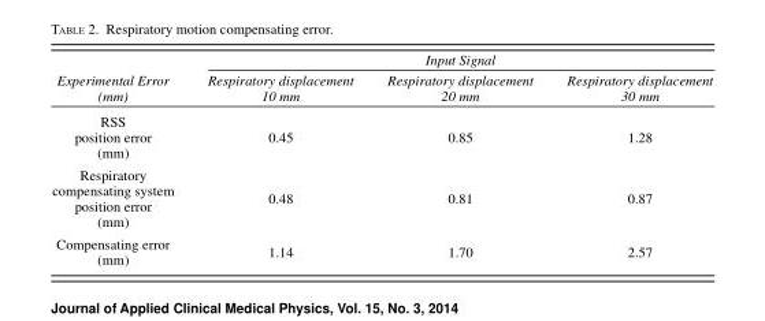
<table><thead><tr><td rowspan="2">Experimental Error (mm)</td><td colspan="3">Input Signal</td></tr><tr><td>Respiratory displacement 10 mm</td><td>Respiratory displacement 20 mm</td><td>Respiratory displacement 30 mm</td></tr></thead><tbody><tr><td>RSS position error (mm)</td><td>0.45</td><td>0.85</td><td>1.28</td></tr><tr><td>Respiratory compensating system position error (mm)</td><td>0.48</td><td>0.81</td><td>0.87</td></tr><tr><td>Compensating error (mm)</td><td>1.14</td><td>1.70</td><td>2.57</td></tr></tbody></table>